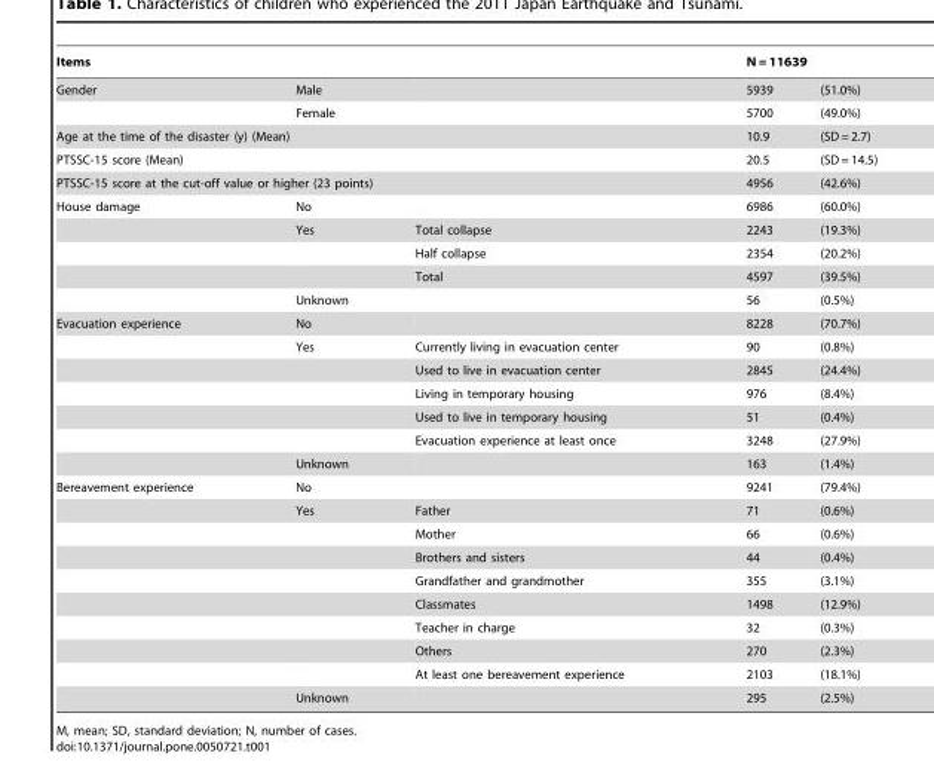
<table><thead><tr><td colspan="3">Items</td><td colspan="2">N = 11639</td></tr><tr><td>Gender</td><td>Male</td><td></td><td>5939</td><td>(51.0%)</td></tr></thead><tbody><tr><td></td><td>Female</td><td></td><td>5700</td><td>(49.0%)</td></tr><tr><td colspan="3">Age at the time of the disaster (y) (Mean)</td><td>10.9</td><td>(SD = 2.7)</td></tr><tr><td colspan="3">PTSSC-15 score (Mean)</td><td>20.5</td><td>(SD = 14.5)</td></tr><tr><td colspan="3">PTSSC-15 score at the cut-off value or higher (23 points)</td><td>4956</td><td>(42.6%)</td></tr><tr><td rowspan="5">House damage</td><td>No</td><td></td><td>6986</td><td>(60.0%)</td></tr><tr><td>Yes</td><td>Total collapse</td><td>2243</td><td>(19.3%)</td></tr><tr><td></td><td>Half collapse</td><td>2354</td><td>(20.2%)</td></tr><tr><td></td><td>Total</td><td>4597</td><td>(39.5%)</td></tr><tr><td>Unknown</td><td></td><td>56</td><td>(0.5%)</td></tr><tr><td rowspan="7">Evacuation experience</td><td>No</td><td></td><td>8228</td><td>(70.7%)</td></tr><tr><td>Yes</td><td>Currently living in evacuation center</td><td>90</td><td>(0.8%)</td></tr><tr><td></td><td>Used to live in evacuation center</td><td>2845</td><td>(24.4%)</td></tr><tr><td></td><td>Living in temporary housing</td><td>976</td><td>(8.4%)</td></tr><tr><td></td><td>Used to live in temporary housing</td><td>51</td><td>(0.4%)</td></tr><tr><td></td><td>Evacuation experience at least once</td><td>3248</td><td>(27.9%)</td></tr><tr><td>Unknown</td><td></td><td>163</td><td>(1.4%)</td></tr><tr><td rowspan="10">Bereavement experience</td><td>No</td><td></td><td>9241</td><td>(79.4%)</td></tr><tr><td>Yes</td><td>Father</td><td>71</td><td>(0.6%)</td></tr><tr><td></td><td>Mother</td><td>66</td><td>(0.6%)</td></tr><tr><td></td><td>Brothers and sisters</td><td>44</td><td>(0.4%)</td></tr><tr><td></td><td>Grandfather and grandmother</td><td>355</td><td>(3.1%)</td></tr><tr><td></td><td>Classmates</td><td>1498</td><td>(12.9%)</td></tr><tr><td></td><td>Teacher in charge</td><td>32</td><td>(0.3%)</td></tr><tr><td></td><td>Others</td><td>270</td><td>(2.3%)</td></tr><tr><td></td><td>At least one bereavement experience</td><td>2103</td><td>(18.1%)</td></tr><tr><td>Unknown</td><td></td><td>295</td><td>(2.5%)</td></tr></tbody></table>